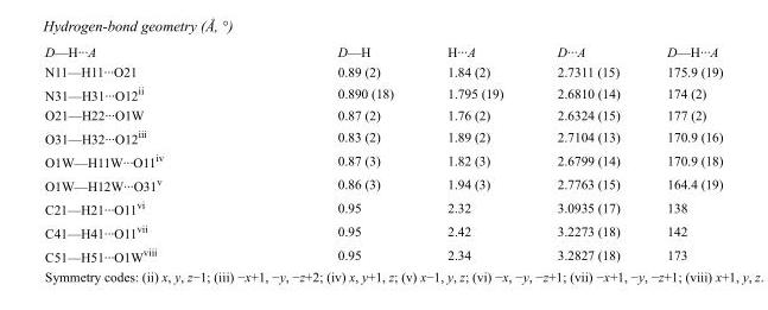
<table><tbody><tr><td>D—H···A</td><td>D—H</td><td>H···A</td><td>D···A</td><td>D—H···A</td></tr><tr><td>N11—H11···O21</td><td>0.89 (2)</td><td>1.84 (2)</td><td>2.7311 (15)</td><td>175.9 (19)</td></tr><tr><td>N31—H31···O12<sup>ii</sup></td><td>0.890 (18)</td><td>1.795 (19)</td><td>2.6810 (14)</td><td>174 (2)</td></tr><tr><td>O21—H22···O1W</td><td>0.87 (2)</td><td>1.76 (2)</td><td>2.6324 (15)</td><td>177 (2)</td></tr><tr><td>O31—H32···O12<sup>iii</sup></td><td>0.83 (2)</td><td>1.89 (2)</td><td>2.7104 (13)</td><td>170.9 (16)</td></tr><tr><td>O1W—H11W···O11<sup>iv</sup></td><td>0.87 (3)</td><td>1.82 (3)</td><td>2.6799 (14)</td><td>170.9 (18)</td></tr><tr><td>O1W—H12W···O31<sup>v</sup></td><td>0.86 (3)</td><td>1.94 (3)</td><td>2.7763 (15)</td><td>164.4 (19)</td></tr><tr><td>C21—H21···O11<sup>vi</sup></td><td>0.95</td><td>2.32</td><td>3.0935 (17)</td><td>138</td></tr><tr><td>C41—H41···O11<sup>vii</sup></td><td>0.95</td><td>2.42</td><td>3.2273 (18)</td><td>142</td></tr><tr><td>C51—H51···O1W<sup>viii</sup></td><td>0.95</td><td>2.34</td><td>3.2827 (18)</td><td>173</td></tr></tbody></table>